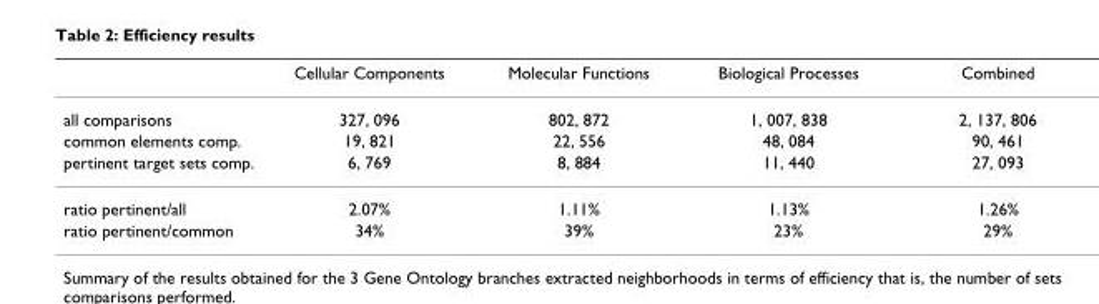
<table><thead><tr><td></td><td>Cellular Components</td><td>Molecular Functions</td><td>Biological Processes</td><td>Combined</td></tr></thead><tbody><tr><td>all comparisons</td><td>327, 096</td><td>802, 872</td><td>1, 007, 838</td><td>2, 137, 806</td></tr><tr><td>common elements comp.</td><td>19, 821</td><td>22, 556</td><td>48, 084</td><td>90, 461</td></tr><tr><td>pertinent target sets comp.</td><td>6, 769</td><td>8, 884</td><td>11, 440</td><td>27, 093</td></tr><tr><td>ratio pertinent/all</td><td>2.07%</td><td>1.11%</td><td>1.13%</td><td>1.26%</td></tr><tr><td>ratio pertinent/common</td><td>34%</td><td>39%</td><td>23%</td><td>29%</td></tr></tbody></table>